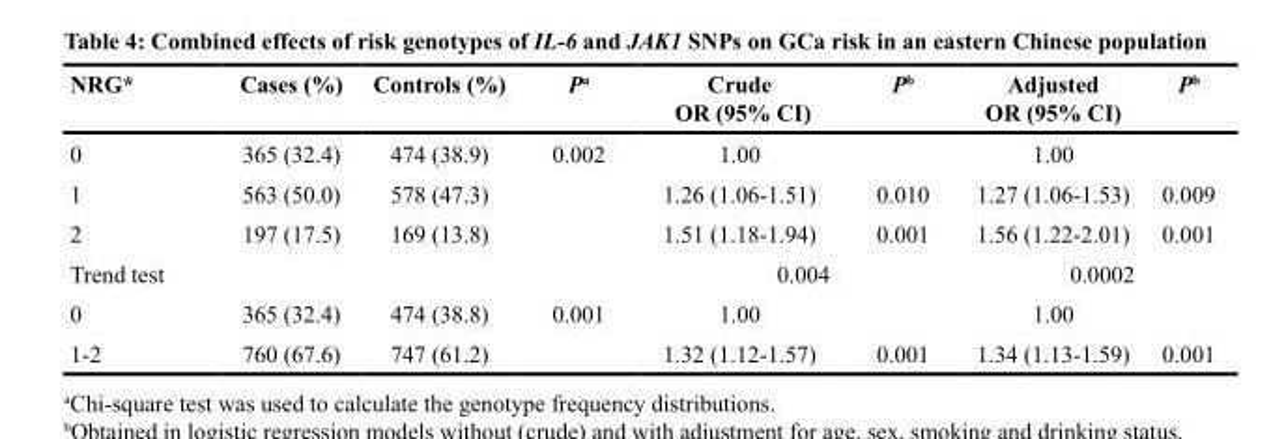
<table><thead><tr><td>NRG*</td><td>Cases (%)</td><td>Controls (%)</td><td>P<sup>a</sup></td><td>Crude OR (95% CI)</td><td>P<sup>b</sup></td><td>Adjusted OR (95% CI)</td><td>P<sup>b</sup></td></tr></thead><tbody><tr><td>0</td><td>365 (32.4)</td><td>474 (38.9)</td><td>0.002</td><td>1.00</td><td></td><td>1.00</td><td></td></tr><tr><td>1</td><td>563 (50.0)</td><td>578 (47.3)</td><td></td><td>1.26 (1.06-1.51)</td><td>0.010</td><td>1.27 (1.06-1.53)</td><td>0.009</td></tr><tr><td>2</td><td>197 (17.5)</td><td>169 (13.8)</td><td></td><td>1.51 (1.18-1.94)</td><td>0.001</td><td>1.56 (1.22-2.01)</td><td>0.001</td></tr><tr><td>Trend test</td><td></td><td></td><td></td><td colspan="2">0.004</td><td colspan="2">0.0002</td></tr><tr><td>0</td><td>365 (32.4)</td><td>474 (38.8)</td><td>0.001</td><td>1.00</td><td></td><td>1.00</td><td></td></tr><tr><td>1-2</td><td>760 (67.6)</td><td>747 (61.2)</td><td></td><td>1.32 (1.12-1.57)</td><td>0.001</td><td>1.34 (1.13-1.59)</td><td>0.001</td></tr></tbody></table>